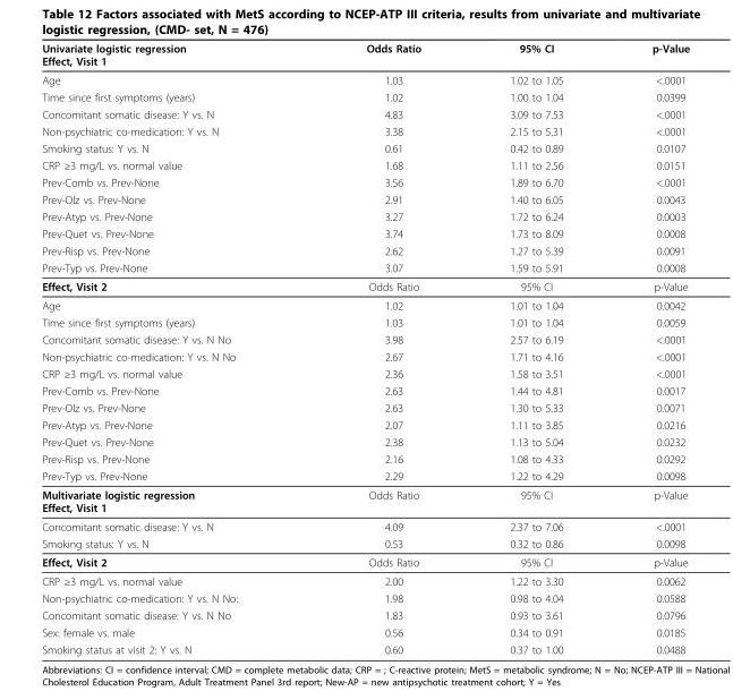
<table><thead><tr><td>Univariate logistic regression Effect, Visit 1</td><td>Odds Ratio</td><td>95% CI</td><td>p-Value</td></tr></thead><tbody><tr><td>Age</td><td>1.03</td><td>1.02 to 1.05</td><td>&lt;.0001</td></tr><tr><td>Time since first symptoms (years)</td><td>1.02</td><td>1.00 to 1.04</td><td>0.0399</td></tr><tr><td>Concomitant somatic disease: Y vs. N</td><td>4.83</td><td>3.09 to 7.53</td><td>&lt;.0001</td></tr><tr><td>Non-psychiatric co-medication: Y vs. N</td><td>3.38</td><td>2.15 to 5.31</td><td>&lt;.0001</td></tr><tr><td>Smoking status: Y vs. N</td><td>0.61</td><td>0.42 to 0.89</td><td>0.0107</td></tr><tr><td>CRP ≥3 mg/L vs. normal value</td><td>1.68</td><td>1.11 to 2.56</td><td>0.0151</td></tr><tr><td>Prev-Comb vs. Prev-None</td><td>3.56</td><td>1.89 to 6.70</td><td>&lt;.0001</td></tr><tr><td>Prev-Olz vs. Prev-None</td><td>2.91</td><td>1.40 to 6.05</td><td>0.0043</td></tr><tr><td>Prev-Atyp vs. Prev-None</td><td>3.27</td><td>1.72 to 6.24</td><td>0.0003</td></tr><tr><td>Prev-Quet vs. Prev-None</td><td>3.74</td><td>1.73 to 8.09</td><td>0.0008</td></tr><tr><td>Prev-Risp vs. Prev-None</td><td>2.62</td><td>1.27 to 5.39</td><td>0.0091</td></tr><tr><td>Prev-Typ vs. Prev-None</td><td>3.07</td><td>1.59 to 5.91</td><td>0.0008</td></tr><tr><td>Effect, Visit 2</td><td>Odds Ratio</td><td>95% CI</td><td>p-Value</td></tr><tr><td>Age</td><td>1.02</td><td>1.01 to 1.04</td><td>0.0042</td></tr><tr><td>Time since first symptoms (years)</td><td>1.03</td><td>1.01 to 1.04</td><td>0.0059</td></tr><tr><td>Concomitant somatic disease: Y vs. N No</td><td>3.98</td><td>2.57 to 6.19</td><td>&lt;.0001</td></tr><tr><td>Non-psychiatric co-medication: Y vs. N No</td><td>2.67</td><td>1.71 to 4.16</td><td>&lt;.0001</td></tr><tr><td>CRP ≥3 mg/L vs. normal value</td><td>2.36</td><td>1.58 to 3.51</td><td>&lt;.0001</td></tr><tr><td>Prev-Comb vs. Prev-None</td><td>2.63</td><td>1.44 to 4.81</td><td>0.0017</td></tr><tr><td>Prev-Olz vs. Prev-None</td><td>2.63</td><td>1.30 to 5.33</td><td>0.0071</td></tr><tr><td>Prev-Atyp vs. Prev-None</td><td>2.07</td><td>1.11 to 3.85</td><td>0.0216</td></tr><tr><td>Prev-Quet vs. Prev-None</td><td>2.38</td><td>1.13 to 5.04</td><td>0.0232</td></tr><tr><td>Prev-Risp vs. Prev-None</td><td>2.16</td><td>1.08 to 4.33</td><td>0.0292</td></tr><tr><td>Prev-Typ vs. Prev-None</td><td>2.29</td><td>1.22 to 4.29</td><td>0.0098</td></tr><tr><td>Multivariate logistic regression Effect, Visit 1</td><td>Odds Ratio</td><td>95% CI</td><td>p-Value</td></tr><tr><td>Concomitant somatic disease: Y vs. N</td><td>4.09</td><td>2.37 to 7.06</td><td>&lt;.0001</td></tr><tr><td>Smoking status: Y vs. N</td><td>0.53</td><td>0.32 to 0.86</td><td>0.0098</td></tr><tr><td>Effect, Visit 2</td><td>Odds Ratio</td><td>95% CI</td><td>p-Value</td></tr><tr><td>CRP ≥3 mg/L vs. normal value</td><td>2.00</td><td>1.22 to 3.30</td><td>0.0062</td></tr><tr><td>Non-psychiatric co-medication: Y vs. N No:</td><td>1.98</td><td>0.98 to 4.04</td><td>0.0588</td></tr><tr><td>Concomitant somatic disease: Y vs. N No</td><td>1.83</td><td>0.93 to 3.61</td><td>0.0796</td></tr><tr><td>Sex: female vs. male</td><td>0.56</td><td>0.34 to 0.91</td><td>0.0185</td></tr><tr><td>Smoking status at visit 2: Y vs. N</td><td>0.60</td><td>0.37 to 1.00</td><td>0.0488</td></tr></tbody></table>